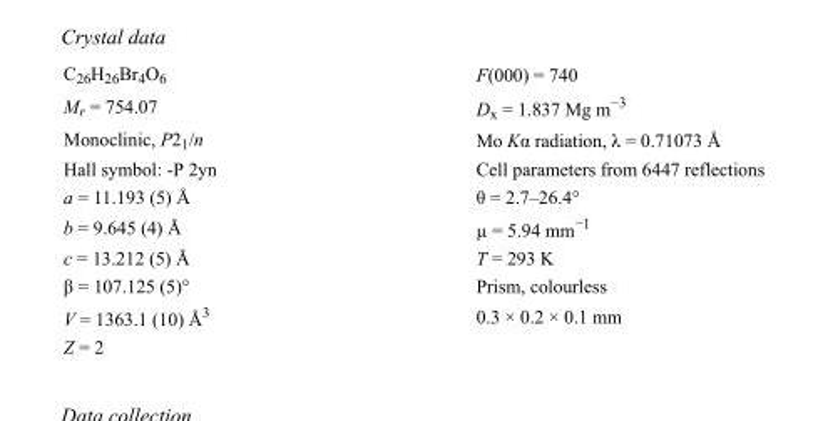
<table><tbody><tr><td>C<sub>26</sub>H<sub>26</sub>Br<sub>4</sub>O<sub>6</sub></td><td>F(000) = 740</td></tr><tr><td>M<sub>r</sub> = 754.07</td><td>D<sub>x</sub> = 1.837 Mg m<sup>−3</sup></td></tr><tr><td>Monoclinic, P2<sub>1</sub>/n</td><td>Mo Kα radiation, λ = 0.71073 Å</td></tr><tr><td>Hall symbol: -P 2yn</td><td>Cell parameters from 6447 reflections</td></tr><tr><td>a = 11.193 (5) Å</td><td>θ = 2.7–26.4°</td></tr><tr><td>b = 9.645 (4) Å</td><td>µ = 5.94 mm<sup>−1</sup></td></tr><tr><td>c = 13.212 (5) Å</td><td>T = 293 K</td></tr><tr><td>β = 107.125 (5)°</td><td>Prism, colourless</td></tr><tr><td>V = 1363.1 (10) Å<sup>3</sup></td><td>0.3 × 0.2 × 0.1 mm</td></tr><tr><td>Z = 2</td><td></td></tr></tbody></table>